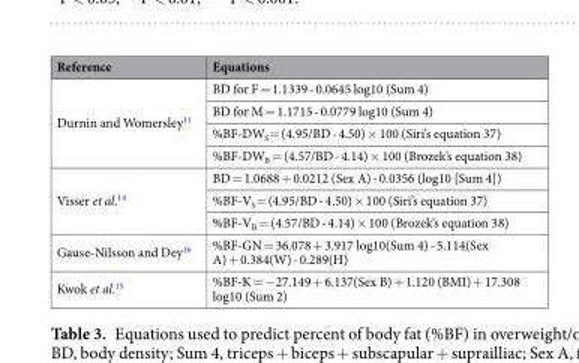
<table><thead><tr><td>Reference</td><td>Equations</td></tr></thead><tbody><tr><td rowspan="4">Durnin and Womersley<sup>11</sup></td><td>BD for F = 1.1339 - 0.0645 log10 (Sum 4)</td></tr><tr><td>BD for M = 1.1715 - 0.0779 log10 (Sum 4)</td></tr><tr><td>%BF-DW<sub>S</sub> = (4.95/BD - 4.50) × 100 (Siri’s equation 37)</td></tr><tr><td>%BF-DW<sub>B</sub> = (4.57/BD - 4.14) × 100 (Brozek’s equation 38)</td></tr><tr><td rowspan="3">Visser et al.<sup>14</sup></td><td>BD = 1.0688 + 0.0212 (Sex A) - 0.0356 (log10 [Sum 4])</td></tr><tr><td>%BF-V<sub>S</sub> = (4.95/BD - 4.50) × 100 (Siri’s equation 37)</td></tr><tr><td>%BF-V<sub>B</sub> = (4.57/BD - 4.14) × 100 (Brozek’s equation 38)</td></tr><tr><td>Gause-Nilsson and Dey<sup>16</sup></td><td>%BF-GN = 36.078 + 3.917 log10(Sum 4) - 5.114(Sex A) + 0.384(W) - 0.289(H)</td></tr><tr><td>Kwok et al.<sup>15</sup></td><td>%BF-K = −27.149 + 6.137(Sex B) + 1.120 (BMI) + 17.308 log10 (Sum 2)</td></tr></tbody></table>